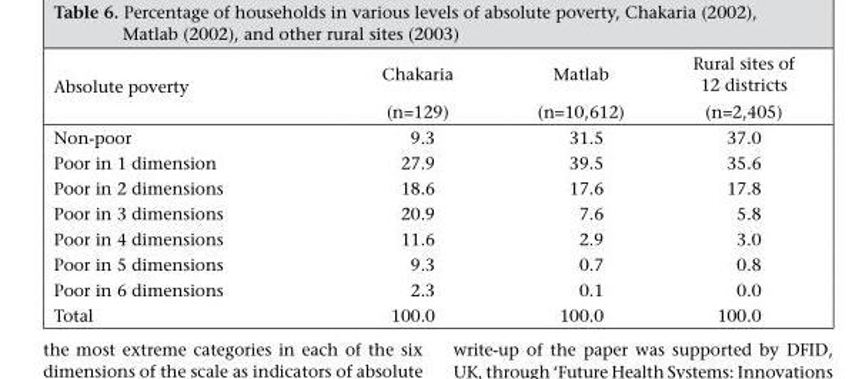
<table><thead><tr><td rowspan="2">Absolute poverty</td><td rowspan="2">Chakaria (n=129)</td><td rowspan="2">Matlab (n=10,612)</td><td rowspan="2">Rural sites of 12 districts (n=2,405)</td></tr><tr></tr></thead><tbody><tr><td>Non-poor</td><td>9.3</td><td>31.5</td><td>37.0</td></tr><tr><td>Poor in 1 dimension</td><td>27.9</td><td>39.5</td><td>35.6</td></tr><tr><td>Poor in 2 dimensions</td><td>18.6</td><td>17.6</td><td>17.8</td></tr><tr><td>Poor in 3 dimensions</td><td>20.9</td><td>7.6</td><td>5.8</td></tr><tr><td>Poor in 4 dimensions</td><td>11.6</td><td>2.9</td><td>3.0</td></tr><tr><td>Poor in 5 dimensions</td><td>9.3</td><td>0.7</td><td>0.8</td></tr><tr><td>Poor in 6 dimensions</td><td>2.3</td><td>0.1</td><td>0.0</td></tr><tr><td>Total</td><td>100.0</td><td>100.0</td><td>100.0</td></tr></tbody></table>